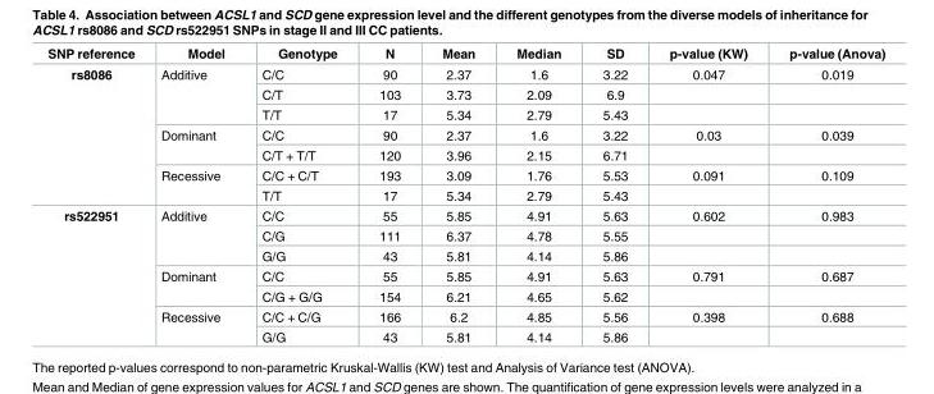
<table><thead><tr><td>SNP reference</td><td>Model</td><td>Genotype</td><td>N</td><td>Mean</td><td>Median</td><td>SD</td><td>p-value (KW)</td><td>p-value (Anova)</td></tr></thead><tbody><tr><td rowspan="7">rs8086</td><td rowspan="3">Additive</td><td>C/C</td><td>90</td><td>2.37</td><td>1.6</td><td>3.22</td><td>0.047</td><td>0.019</td></tr><tr><td>C/T</td><td>103</td><td>3.73</td><td>2.09</td><td>6.9</td><td></td><td></td></tr><tr><td>T/T</td><td>17</td><td>5.34</td><td>2.79</td><td>5.43</td><td></td><td></td></tr><tr><td rowspan="2">Dominant</td><td>C/C</td><td>90</td><td>2.37</td><td>1.6</td><td>3.22</td><td>0.03</td><td>0.039</td></tr><tr><td>C/T + T/T</td><td>120</td><td>3.96</td><td>2.15</td><td>6.71</td><td></td><td></td></tr><tr><td rowspan="2">Recessive</td><td>C/C + C/T</td><td>193</td><td>3.09</td><td>1.76</td><td>5.53</td><td>0.091</td><td>0.109</td></tr><tr><td>T/T</td><td>17</td><td>5.34</td><td>2.79</td><td>5.43</td><td></td><td></td></tr><tr><td rowspan="7">rs522951</td><td rowspan="3">Additive</td><td>C/C</td><td>55</td><td>5.85</td><td>4.91</td><td>5.63</td><td>0.602</td><td>0.983</td></tr><tr><td>C/G</td><td>111</td><td>6.37</td><td>4.78</td><td>5.55</td><td></td><td></td></tr><tr><td>G/G</td><td>43</td><td>5.81</td><td>4.14</td><td>5.86</td><td></td><td></td></tr><tr><td rowspan="2">Dominant</td><td>C/C</td><td>55</td><td>5.85</td><td>4.91</td><td>5.63</td><td>0.791</td><td>0.687</td></tr><tr><td>C/G + G/G</td><td>154</td><td>6.21</td><td>4.65</td><td>5.62</td><td></td><td></td></tr><tr><td rowspan="2">Recessive</td><td>C/C + C/G</td><td>166</td><td>6.2</td><td>4.85</td><td>5.56</td><td>0.398</td><td>0.688</td></tr><tr><td>G/G</td><td>43</td><td>5.81</td><td>4.14</td><td>5.86</td><td></td><td></td></tr></tbody></table>